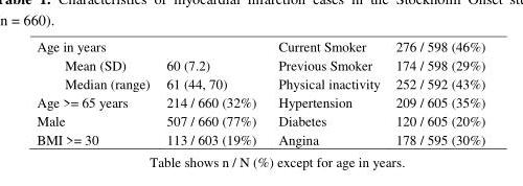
<table><tbody><tr><td>Age in years</td><td></td><td>Current Smoker</td><td>276 / 598 (46%)</td></tr><tr><td>Mean (SD)</td><td>60 (7.2)</td><td>Previous Smoker</td><td>174 / 598 (29%)</td></tr><tr><td>Median (range)</td><td>61 (44, 70)</td><td>Physical inactivity</td><td>252 / 592 (43%)</td></tr><tr><td>Age &gt;= 65 years</td><td>214 / 660 (32%)</td><td>Hypertension</td><td>209 / 605 (35%)</td></tr><tr><td>Male</td><td>507 / 660 (77%)</td><td>Diabetes</td><td>120 / 605 (20%)</td></tr><tr><td>BMI &gt;= 30</td><td>113 / 603 (19%)</td><td>Angina</td><td>178 / 595 (30%)</td></tr></tbody></table>